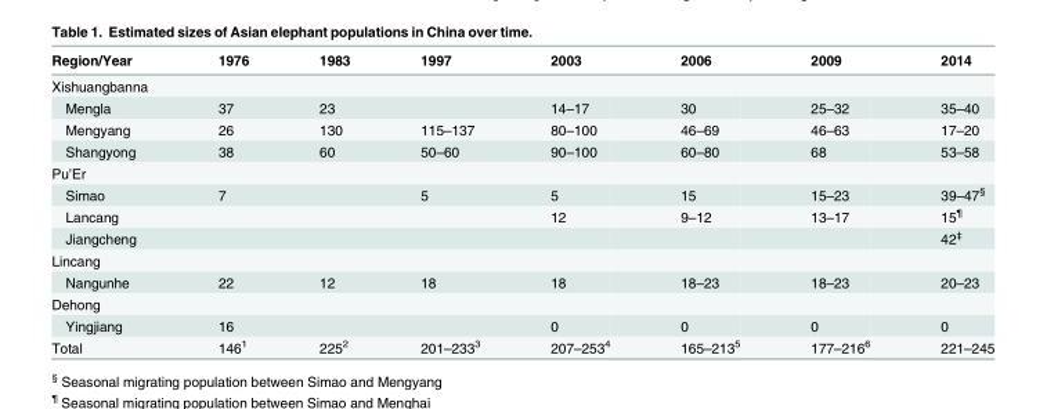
<table><thead><tr><td>Region/Year</td><td>1976</td><td>1983</td><td>1997</td><td>2003</td><td>2006</td><td>2009</td><td>2014</td></tr></thead><tbody><tr><td colspan="8">Xishuangbanna</td></tr><tr><td>Mengla</td><td>37</td><td>23</td><td></td><td>14–17</td><td>30</td><td>25–32</td><td>35–40</td></tr><tr><td>Mengyang</td><td>26</td><td>130</td><td>115–137</td><td>80–100</td><td>46–69</td><td>46–63</td><td>17–20</td></tr><tr><td>Shangyong</td><td>38</td><td>60</td><td>50–60</td><td>90–100</td><td>60–80</td><td>68</td><td>53–58</td></tr><tr><td colspan="8">Pu’Er</td></tr><tr><td>Simao</td><td>7</td><td></td><td>5</td><td>5</td><td>15</td><td>15–23</td><td>39–47<sup>§</sup></td></tr><tr><td>Lancang</td><td></td><td></td><td></td><td>12</td><td>9–12</td><td>13–17</td><td>15<sup>¶</sup></td></tr><tr><td>Jiangcheng</td><td></td><td></td><td></td><td></td><td></td><td></td><td>42<sup>‡</sup></td></tr><tr><td colspan="8">Lincang</td></tr><tr><td>Nangunhe</td><td>22</td><td>12</td><td>18</td><td>18</td><td>18–23</td><td>18–23</td><td>20–23</td></tr><tr><td colspan="8">Dehong</td></tr><tr><td>Yingjiang</td><td>16</td><td></td><td></td><td>0</td><td>0</td><td>0</td><td>0</td></tr><tr><td>Total</td><td>146<sup>1</sup></td><td>225<sup>2</sup></td><td>201–233<sup>3</sup></td><td>207–253<sup>4</sup></td><td>165–213<sup>5</sup></td><td>177–216<sup>6</sup></td><td>221–245</td></tr></tbody></table>